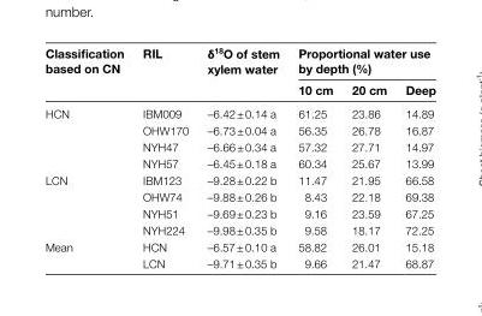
<table><thead><tr><td rowspan="2">Classification based on CN</td><td rowspan="2">RIL</td><td rowspan="2">δ<sup>18</sup>O of stem xylem water</td><td colspan="3">Proportional water use by depth (%)</td></tr><tr><td>10 cm</td><td>20 cm</td><td>Deep</td></tr></thead><tbody><tr><td rowspan="4">HCN</td><td>IBM009</td><td>–6.42 ± 0.14 a</td><td>61.25</td><td>23.86</td><td>14.89</td></tr><tr><td>OHW170</td><td>–6.73 ± 0.04 a</td><td>56.35</td><td>26.78</td><td>16.87</td></tr><tr><td>NYH47</td><td>–6.66 ± 0.34 a</td><td>57.32</td><td>27.71</td><td>14.97</td></tr><tr><td>NYH57</td><td>–6.45 ± 0.18 a</td><td>60.34</td><td>25.67</td><td>13.99</td></tr><tr><td rowspan="4">LCN</td><td>IBM123</td><td>–9.28 ± 0.22 b</td><td>11.47</td><td>21.95</td><td>66.58</td></tr><tr><td>OHW74</td><td>–9.88 ± 0.26 b</td><td>8.43</td><td>22.18</td><td>69.38</td></tr><tr><td>NYH51</td><td>–9.69 ± 0.23 b</td><td>9.16</td><td>23.59</td><td>67.25</td></tr><tr><td>NYH224</td><td>–9.98 ± 0.35 b</td><td>9.58</td><td>18.17</td><td>72.25</td></tr><tr><td rowspan="2">Mean</td><td>HCN</td><td>–6.57 ± 0.10 a</td><td>58.82</td><td>26.01</td><td>15.18</td></tr><tr><td>LCN</td><td>–9.71 ± 0.35 b</td><td>9.66</td><td>21.47</td><td>68.87</td></tr></tbody></table>